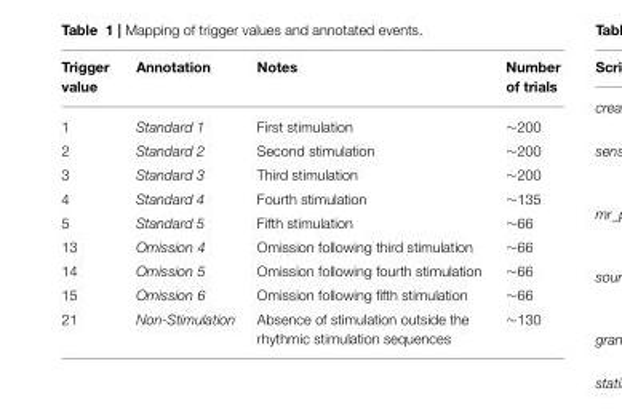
<table><thead><tr><td>Trigger value</td><td>Annotation</td><td>Notes</td><td>Number of trials</td></tr></thead><tbody><tr><td>1</td><td>Standard 1</td><td>First stimulation</td><td>∼200</td></tr><tr><td>2</td><td>Standard 2</td><td>Second stimulation</td><td>∼200</td></tr><tr><td>3</td><td>Standard 3</td><td>Third stimulation</td><td>∼200</td></tr><tr><td>4</td><td>Standard 4</td><td>Fourth stimulation</td><td>∼135</td></tr><tr><td>5</td><td>Standard 5</td><td>Fifth stimulation</td><td>∼66</td></tr><tr><td>13</td><td>Omission 4</td><td>Omission following third stimulation</td><td>∼66</td></tr><tr><td>14</td><td>Omission 5</td><td>Omission following fourth stimulation</td><td>∼66</td></tr><tr><td>15</td><td>Omission 6</td><td>Omission following fifth stimulation</td><td>∼66</td></tr><tr><td>21</td><td>Non-Stimulation</td><td>Absence of stimulation outside the rhythmic stimulation sequences</td><td>∼130</td></tr></tbody></table>